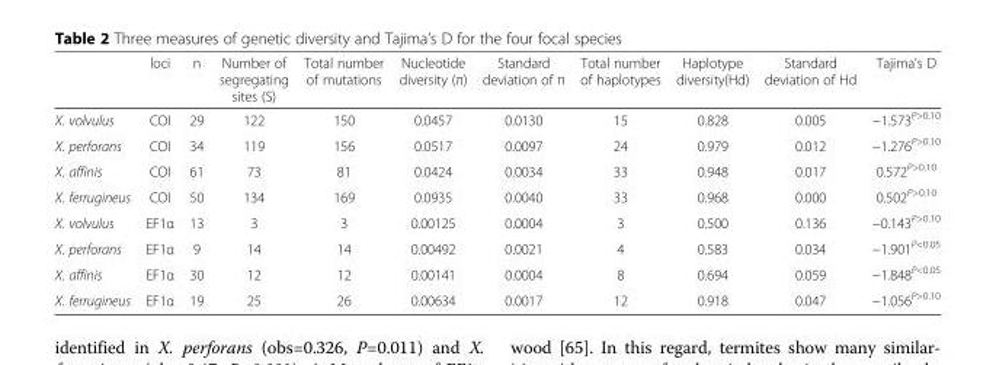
<table><thead><tr><td></td><td>loci</td><td>n</td><td>Number of segregating sites (S)</td><td>Total number of mutations</td><td>Nucleotide diversity (π)</td><td>Standard deviation of π</td><td>Total number of haplotypes</td><td>Haplotype diversity(Hd)</td><td>Standard deviation of Hd</td><td>Tajima&#x27;s D</td></tr></thead><tbody><tr><td>X. volvulus</td><td>COI</td><td>29</td><td>122</td><td>150</td><td>0.0457</td><td>0.0130</td><td>15</td><td>0.828</td><td>0.005</td><td>−1.573<sup>P&gt;0.10</sup></td></tr><tr><td>X. perforans</td><td>COI</td><td>34</td><td>119</td><td>156</td><td>0.0517</td><td>0.0097</td><td>24</td><td>0.979</td><td>0.012</td><td>−1.276<sup>P&gt;0.10</sup></td></tr><tr><td>X. affinis</td><td>COI</td><td>61</td><td>73</td><td>81</td><td>0.0424</td><td>0.0034</td><td>33</td><td>0.948</td><td>0.017</td><td>0.572<sup>P&gt;0.10</sup></td></tr><tr><td>X. ferrugineus</td><td>COI</td><td>50</td><td>134</td><td>169</td><td>0.0935</td><td>0.0040</td><td>33</td><td>0.968</td><td>0.000</td><td>0.502<sup>P&gt;0.10</sup></td></tr><tr><td>X. volvulus</td><td>EF1α</td><td>13</td><td>3</td><td>3</td><td>0.00125</td><td>0.0004</td><td>3</td><td>0.500</td><td>0.136</td><td>−0.143<sup>P&gt;0.10</sup></td></tr><tr><td>X. perforans</td><td>EF1α</td><td>9</td><td>14</td><td>14</td><td>0.00492</td><td>0.0021</td><td>4</td><td>0.583</td><td>0.034</td><td>−1.901<sup>P&lt;0.05</sup></td></tr><tr><td>X. affinis</td><td>EF1α</td><td>30</td><td>12</td><td>12</td><td>0.00141</td><td>0.0004</td><td>8</td><td>0.694</td><td>0.059</td><td>−1.848<sup>P&lt;0.05</sup></td></tr><tr><td>X. ferrugineus</td><td>EF1α</td><td>19</td><td>25</td><td>26</td><td>0.00634</td><td>0.0017</td><td>12</td><td>0.918</td><td>0.047</td><td>−1.056<sup>P&gt;0.10</sup></td></tr></tbody></table>